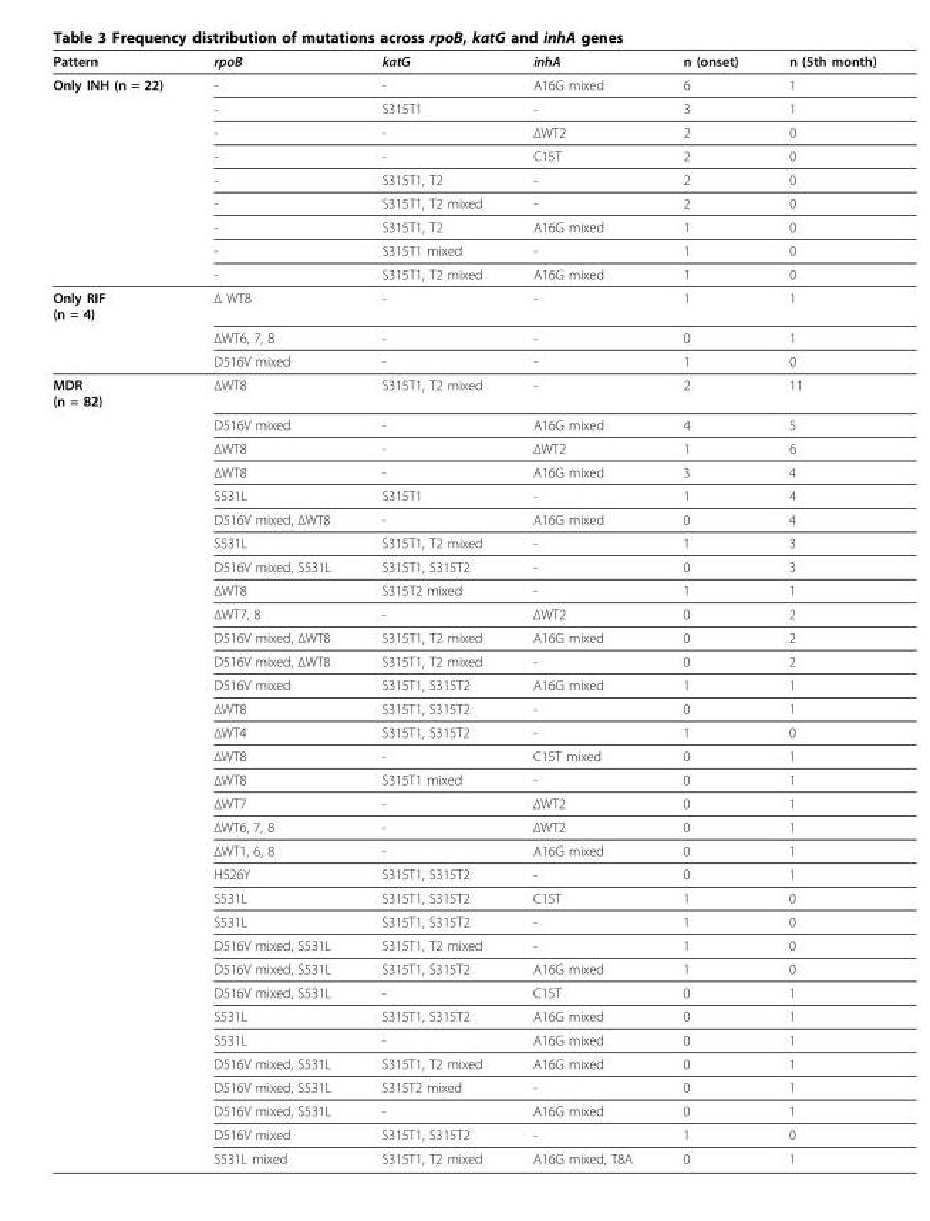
<table><thead><tr><td>Pattern</td><td>rpoB</td><td>katG</td><td>inhA</td><td>n (onset)</td><td>n (5th month)</td></tr></thead><tbody><tr><td rowspan="9">Only INH (n = 22)</td><td>-</td><td>-</td><td>A16G mixed</td><td>6</td><td>1</td></tr><tr><td>-</td><td>S315T1</td><td>-</td><td>3</td><td>1</td></tr><tr><td>-</td><td>-</td><td>ΔWT2</td><td>2</td><td>0</td></tr><tr><td>-</td><td>-</td><td>C15T</td><td>2</td><td>0</td></tr><tr><td>-</td><td>S315T1, T2</td><td>-</td><td>2</td><td>0</td></tr><tr><td>-</td><td>S315T1, T2 mixed</td><td>-</td><td>2</td><td>0</td></tr><tr><td>-</td><td>S315T1, T2</td><td>A16G mixed</td><td>1</td><td>0</td></tr><tr><td>-</td><td>S315T1 mixed</td><td>-</td><td>1</td><td>0</td></tr><tr><td>-</td><td>S315T1, T2 mixed</td><td>A16G mixed</td><td>1</td><td>0</td></tr><tr><td rowspan="3">Only RIF (n = 4)</td><td>Δ WT8</td><td>-</td><td>-</td><td>1</td><td>1</td></tr><tr><td>ΔWT6, 7, 8</td><td>-</td><td>-</td><td>0</td><td>1</td></tr><tr><td>D516V mixed</td><td>-</td><td>-</td><td>1</td><td>0</td></tr><tr><td rowspan="33">MDR (n = 82)</td><td>ΔWT8</td><td>S315T1, T2 mixed</td><td>-</td><td>2</td><td>11</td></tr><tr><td>D516V mixed</td><td>-</td><td>A16G mixed</td><td>4</td><td>5</td></tr><tr><td>ΔWT8</td><td>-</td><td>ΔWT2</td><td>1</td><td>6</td></tr><tr><td>ΔWT8</td><td>-</td><td>A16G mixed</td><td>3</td><td>4</td></tr><tr><td>S531L</td><td>S315T1</td><td>-</td><td>1</td><td>4</td></tr><tr><td>D516V mixed, ΔWT8</td><td>-</td><td>A16G mixed</td><td>0</td><td>4</td></tr><tr><td>S531L</td><td>S315T1, T2 mixed</td><td>-</td><td>1</td><td>3</td></tr><tr><td>D516V mixed, S531L</td><td>S315T1, S315T2</td><td>-</td><td>0</td><td>3</td></tr><tr><td>ΔWT8</td><td>S315T2 mixed</td><td>-</td><td>1</td><td>1</td></tr><tr><td>ΔWT7, 8</td><td>-</td><td>ΔWT2</td><td>0</td><td>2</td></tr><tr><td>D516V mixed, ΔWT8</td><td>S315T1, T2 mixed</td><td>A16G mixed</td><td>0</td><td>2</td></tr><tr><td>D516V mixed, ΔWT8</td><td>S315T1, T2 mixed</td><td>-</td><td>0</td><td>2</td></tr><tr><td>D516V mixed</td><td>S315T1, S315T2</td><td>A16G mixed</td><td>1</td><td>1</td></tr><tr><td>ΔWT8</td><td>S315T1, S315T2</td><td>-</td><td>0</td><td>1</td></tr><tr><td>ΔWT4</td><td>S315T1, S315T2</td><td>-</td><td>1</td><td>0</td></tr><tr><td>ΔWT8</td><td>-</td><td>C15T mixed</td><td>0</td><td>1</td></tr><tr><td>ΔWT8</td><td>S315T1 mixed</td><td>-</td><td>0</td><td>1</td></tr><tr><td>ΔWT7</td><td>-</td><td>ΔWT2</td><td>0</td><td>1</td></tr><tr><td>ΔWT6, 7, 8</td><td>-</td><td>ΔWT2</td><td>0</td><td>1</td></tr><tr><td>ΔWT1, 6, 8</td><td>-</td><td>A16G mixed</td><td>0</td><td>1</td></tr><tr><td>H526Y</td><td>S315T1, S315T2</td><td>-</td><td>0</td><td>1</td></tr><tr><td>S531L</td><td>S315T1, S315T2</td><td>C15T</td><td>1</td><td>0</td></tr><tr><td>S531L</td><td>S315T1, S315T2</td><td>-</td><td>1</td><td>0</td></tr><tr><td>D516V mixed, S531L</td><td>S315T1, T2 mixed</td><td>-</td><td>1</td><td>0</td></tr><tr><td>D516V mixed, S531L</td><td>S315T1, S315T2</td><td>A16G mixed</td><td>1</td><td>0</td></tr><tr><td>D516V mixed, S531L</td><td>-</td><td>C15T</td><td>0</td><td>1</td></tr><tr><td>S531L</td><td>S315T1, S315T2</td><td>A16G mixed</td><td>0</td><td>1</td></tr><tr><td>S531L</td><td>-</td><td>A16G mixed</td><td>0</td><td>1</td></tr><tr><td>D516V mixed, S531L</td><td>S315T1, T2 mixed</td><td>A16G mixed</td><td>0</td><td>1</td></tr><tr><td>D516V mixed, S531L</td><td>S315T2 mixed</td><td>-</td><td>0</td><td>1</td></tr><tr><td>D516V mixed, S531L</td><td>-</td><td>A16G mixed</td><td>0</td><td>1</td></tr><tr><td>D516V mixed</td><td>S315T1, S315T2</td><td>-</td><td>1</td><td>0</td></tr><tr><td>S531L mixed</td><td>S315T1, T2 mixed</td><td>A16G mixed, T8A</td><td>0</td><td>1</td></tr></tbody></table>